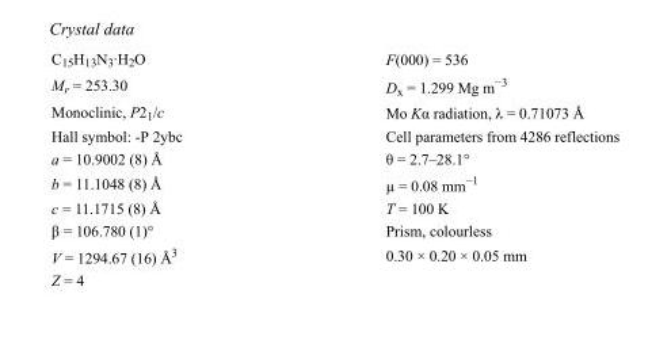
<table><tbody><tr><td>C<sub>15</sub>H<sub>13</sub>N<sub>3</sub>·H<sub>2</sub>O</td><td>F(000) = 536</td></tr><tr><td>M<sub>r</sub> = 253.30</td><td>D<sub>x</sub> = 1.299 Mg m<sup>−3</sup></td></tr><tr><td>Monoclinic, P2<sub>1</sub>/c</td><td>Mo Kα radiation, λ = 0.71073 Å</td></tr><tr><td>Hall symbol: -P 2ybc</td><td>Cell parameters from 4286 reflections</td></tr><tr><td>a = 10.9002 (8) Å</td><td>θ = 2.7–28.1°</td></tr><tr><td>b = 11.1048 (8) Å</td><td>µ = 0.08 mm<sup>−1</sup></td></tr><tr><td>c = 11.1715 (8) Å</td><td>T = 100 K</td></tr><tr><td>β = 106.780 (1)°</td><td>Prism, colourless</td></tr><tr><td>V = 1294.67 (16) Å<sup>3</sup></td><td>0.30 × 0.20 × 0.05 mm</td></tr><tr><td>Z = 4</td><td></td></tr></tbody></table>